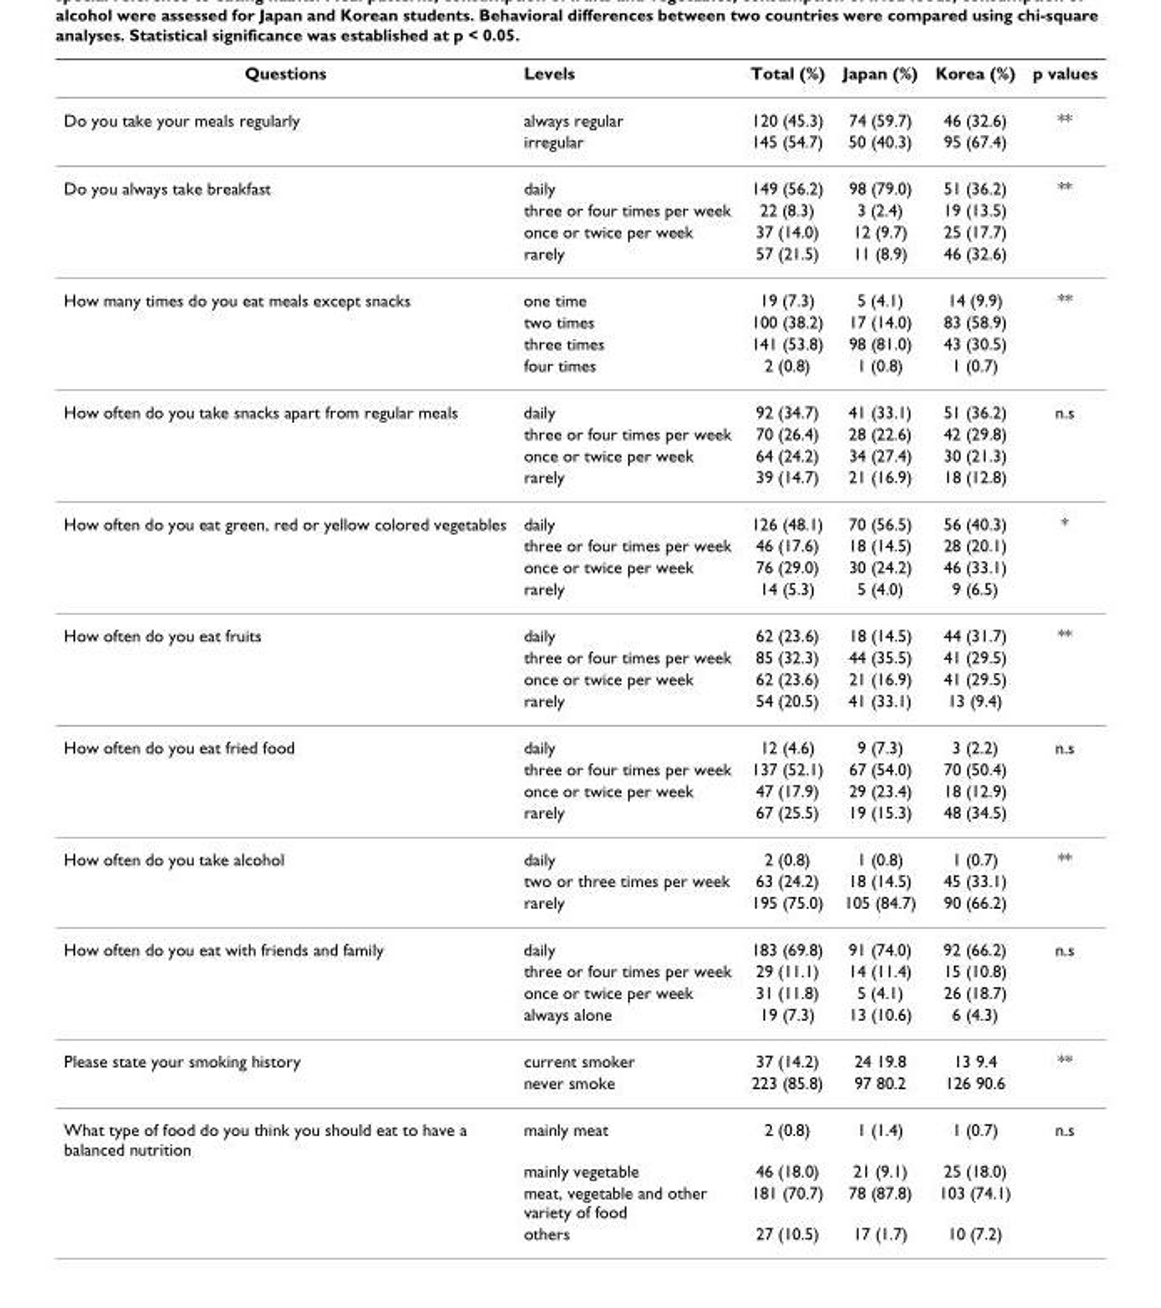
<table><thead><tr><td>Questions</td><td>Levels</td><td>Total (%)</td><td>Japan (%)</td><td>Korea (%)</td><td>p values</td></tr></thead><tbody><tr><td rowspan="2">Do you take your meals regularly</td><td>always regular</td><td>120 (45.3)</td><td>74 (59.7)</td><td>46 (32.6)</td><td>**</td></tr><tr><td>irregular</td><td>145 (54.7)</td><td>50 (40.3)</td><td>95 (67.4)</td><td></td></tr><tr><td rowspan="4">Do you always take breakfast</td><td>daily</td><td>149 (56.2)</td><td>98 (79.0)</td><td>51 (36.2)</td><td>**</td></tr><tr><td>three or four times per week</td><td>22 (8.3)</td><td>3 (2.4)</td><td>19 (13.5)</td><td></td></tr><tr><td>once or twice per week</td><td>37 (14.0)</td><td>12 (9.7)</td><td>25 (17.7)</td><td></td></tr><tr><td>rarely</td><td>57 (21.5)</td><td>11 (8.9)</td><td>46 (32.6)</td><td></td></tr><tr><td rowspan="4">How many times do you eat meals except snacks</td><td>one time</td><td>19 (7.3)</td><td>5 (4.1)</td><td>14 (9.9)</td><td>**</td></tr><tr><td>two times</td><td>100 (38.2)</td><td>17 (14.0)</td><td>83 (58.9)</td><td></td></tr><tr><td>three times</td><td>141 (53.8)</td><td>98 (81.0)</td><td>43 (30.5)</td><td></td></tr><tr><td>four times</td><td>2 (0.8)</td><td>1 (0.8)</td><td>1 (0.7)</td><td></td></tr><tr><td rowspan="4">How often do you take snacks apart from regular meals</td><td>daily</td><td>92 (34.7)</td><td>41 (33.1)</td><td>51 (36.2)</td><td>n.s</td></tr><tr><td>three or four times per week</td><td>70 (26.4)</td><td>28 (22.6)</td><td>42 (29.8)</td><td></td></tr><tr><td>once or twice per week</td><td>64 (24.2)</td><td>34 (27.4)</td><td>30 (21.3)</td><td></td></tr><tr><td>rarely</td><td>39 (14.7)</td><td>21 (16.9)</td><td>18 (12.8)</td><td></td></tr><tr><td rowspan="4">How often do you eat green, red or yellow colored vegetables</td><td>daily</td><td>126 (48.1)</td><td>70 (56.5)</td><td>56 (40.3)</td><td>*</td></tr><tr><td>three or four times per week</td><td>46 (17.6)</td><td>18 (14.5)</td><td>28 (20.1)</td><td></td></tr><tr><td>once or twice per week</td><td>76 (29.0)</td><td>30 (24.2)</td><td>46 (33.1)</td><td></td></tr><tr><td>rarely</td><td>14 (5.3)</td><td>5 (4.0)</td><td>9 (6.5)</td><td></td></tr><tr><td rowspan="4">How often do you eat fruits</td><td>daily</td><td>62 (23.6)</td><td>18 (14.5)</td><td>44 (31.7)</td><td>**</td></tr><tr><td>three or four times per week</td><td>85 (32.3)</td><td>44 (35.5)</td><td>41 (29.5)</td><td></td></tr><tr><td>once or twice per week</td><td>62 (23.6)</td><td>21 (16.9)</td><td>41 (29.5)</td><td></td></tr><tr><td>rarely</td><td>54 (20.5)</td><td>41 (33.1)</td><td>13 (9.4)</td><td></td></tr><tr><td rowspan="4">How often do you eat fried food</td><td>daily</td><td>12 (4.6)</td><td>9 (7.3)</td><td>3 (2.2)</td><td>n.s</td></tr><tr><td>three or four times per week</td><td>137 (52.1)</td><td>67 (54.0)</td><td>70 (50.4)</td><td></td></tr><tr><td>once or twice per week</td><td>47 (17.9)</td><td>29 (23.4)</td><td>18 (12.9)</td><td></td></tr><tr><td>rarely</td><td>67 (25.5)</td><td>19 (15.3)</td><td>48 (34.5)</td><td></td></tr><tr><td rowspan="3">How often do you take alcohol</td><td>daily</td><td>2 (0.8)</td><td>1 (0.8)</td><td>1 (0.7)</td><td>**</td></tr><tr><td>two or three times per week</td><td>63 (24.2)</td><td>18 (14.5)</td><td>45 (33.1)</td><td></td></tr><tr><td>rarely</td><td>195 (75.0)</td><td>105 (84.7)</td><td>90 (66.2)</td><td></td></tr><tr><td rowspan="4">How often do you eat with friends and family</td><td>daily</td><td>183 (69.8)</td><td>91 (74.0)</td><td>92 (66.2)</td><td>n.s</td></tr><tr><td>three or four times per week</td><td>29 (11.1)</td><td>14 (11.4)</td><td>15 (10.8)</td><td></td></tr><tr><td>once or twice per week</td><td>31 (11.8)</td><td>5 (4.1)</td><td>26 (18.7)</td><td></td></tr><tr><td>always alone</td><td>19 (7.3)</td><td>13 (10.6)</td><td>6 (4.3)</td><td></td></tr><tr><td rowspan="2">Please state your smoking history</td><td>current smoker</td><td>37 (14.2)</td><td>24 19.8</td><td>13 9.4</td><td>**</td></tr><tr><td>never smoke</td><td>223 (85.8)</td><td>97 80.2</td><td>126 90.6</td><td></td></tr><tr><td rowspan="4">What type of food do you think you should eat to have a balanced nutrition</td><td>mainly meat</td><td>2 (0.8)</td><td>1 (1.4)</td><td>1 (0.7)</td><td>n.s</td></tr><tr><td>mainly vegetable</td><td>46 (18.0)</td><td>21 (9.1)</td><td>25 (18.0)</td><td></td></tr><tr><td>meat, vegetable and other variety of food</td><td>181 (70.7)</td><td>78 (87.8)</td><td>103 (74.1)</td><td></td></tr><tr><td>others</td><td>27 (10.5)</td><td>17 (1.7)</td><td>10 (7.2)</td><td></td></tr></tbody></table>